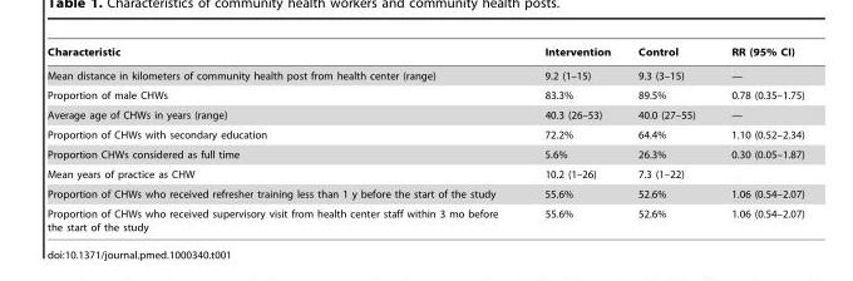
<table><thead><tr><td>Characteristic</td><td>Intervention</td><td>Control</td><td>RR (95% CI)</td></tr></thead><tbody><tr><td>Mean distance in kilometers of community health post from health center (range)</td><td>9.2 (1–15)</td><td>9.3 (3–15)</td><td>—</td></tr><tr><td>Proportion of male CHWs</td><td>83.3%</td><td>89.5%</td><td>0.78 (0.35–1.75)</td></tr><tr><td>Average age of CHWs in years (range)</td><td>40.3 (26–53)</td><td>40.0 (27–55)</td><td>—</td></tr><tr><td>Proportion of CHWs with secondary education</td><td>72.2%</td><td>64.4%</td><td>1.10 (0.52–2.34)</td></tr><tr><td>Proportion CHWs considered as full time</td><td>5.6%</td><td>26.3%</td><td>0.30 (0.05–1.87)</td></tr><tr><td>Mean years of practice as CHW</td><td>10.2 (1–26)</td><td>7.3 (1–22)</td><td></td></tr><tr><td>Proportion of CHWs who received refresher training less than 1 y before the start of the study</td><td>55.6%</td><td>52.6%</td><td>1.06 (0.54–2.07)</td></tr><tr><td>Proportion of CHWs who received supervisory visit from health center staff within 3 mo before the start of the study</td><td>55.6%</td><td>52.6%</td><td>1.06 (0.54–2.07)</td></tr></tbody></table>